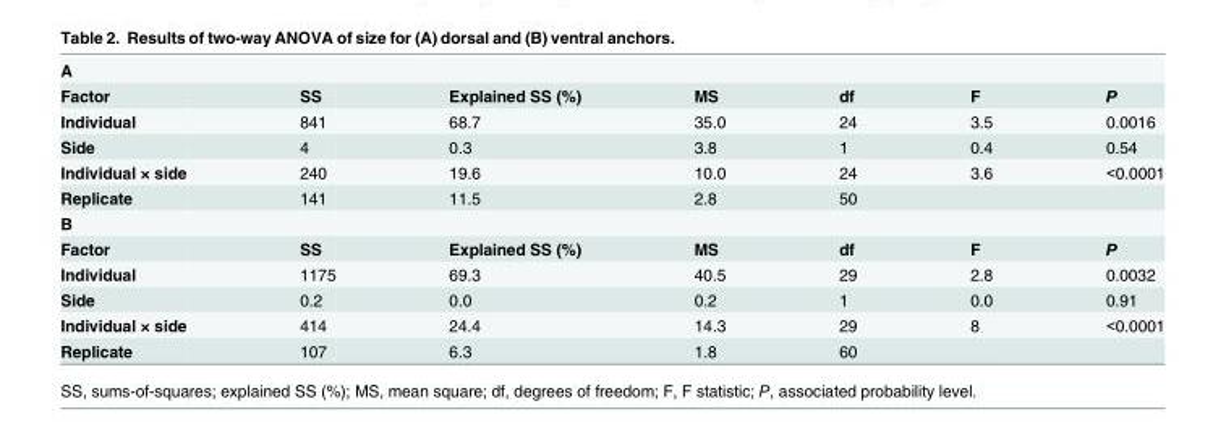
<table><tbody><tr><td colspan="7">A</td></tr><tr><td>Factor</td><td>SS</td><td>Explained SS (%)</td><td>MS</td><td>df</td><td>F</td><td>P</td></tr><tr><td>Individual</td><td>841</td><td>68.7</td><td>35.0</td><td>24</td><td>3.5</td><td>0.0016</td></tr><tr><td>Side</td><td>4</td><td>0.3</td><td>3.8</td><td>1</td><td>0.4</td><td>0.54</td></tr><tr><td>Individual × side</td><td>240</td><td>19.6</td><td>10.0</td><td>24</td><td>3.6</td><td>&lt;0.0001</td></tr><tr><td>Replicate</td><td>141</td><td>11.5</td><td>2.8</td><td>50</td><td></td><td></td></tr><tr><td colspan="7">B</td></tr><tr><td>Factor</td><td>SS</td><td>Explained SS (%)</td><td>MS</td><td>df</td><td>F</td><td>P</td></tr><tr><td>Individual</td><td>1175</td><td>69.3</td><td>40.5</td><td>29</td><td>2.8</td><td>0.0032</td></tr><tr><td>Side</td><td>0.2</td><td>0.0</td><td>0.2</td><td>1</td><td>0.0</td><td>0.91</td></tr><tr><td>Individual × side</td><td>414</td><td>24.4</td><td>14.3</td><td>29</td><td>8</td><td>&lt;0.0001</td></tr><tr><td>Replicate</td><td>107</td><td>6.3</td><td>1.8</td><td>60</td><td></td><td></td></tr></tbody></table>